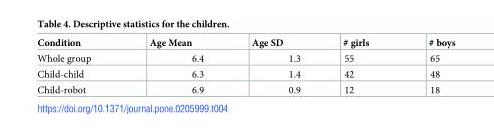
<table><thead><tr><td>Condition</td><td>Age Mean</td><td>Age SD</td><td># girls</td><td># boys</td></tr></thead><tbody><tr><td>Whole group</td><td>6.4</td><td>1.3</td><td>55</td><td>65</td></tr><tr><td>Child-child</td><td>6.3</td><td>1.4</td><td>42</td><td>48</td></tr><tr><td>Child-robot</td><td>6.9</td><td>0.9</td><td>12</td><td>18</td></tr></tbody></table>